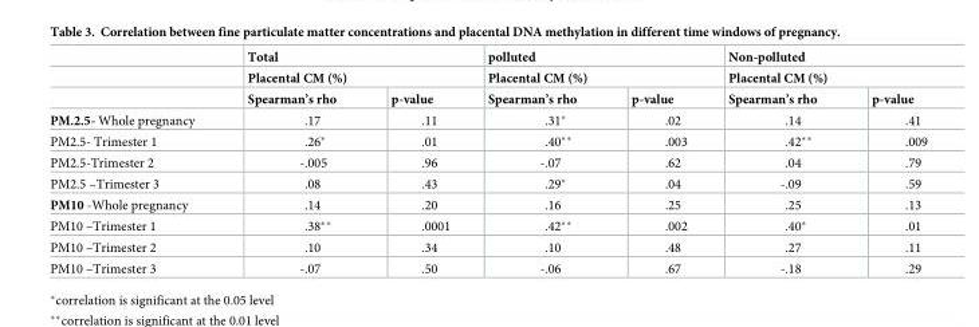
<table><thead><tr><td rowspan="3"></td><td rowspan="2" colspan="2">Total Placental CM (%)</td><td rowspan="2" colspan="2">polluted Placental CM (%)</td><td rowspan="2" colspan="2">Non-polluted Placental CM (%)</td></tr><tr></tr><tr><td>Spearman’s rho</td><td>p-value</td><td>Spearman’s rho</td><td>p-value</td><td>Spearman’s rho</td><td>p-value</td></tr></thead><tbody><tr><td>PM.2.5- Whole pregnancy</td><td>.17</td><td>.11</td><td>.31*</td><td>.02</td><td>.14</td><td>.41</td></tr><tr><td>PM2.5- Trimester 1</td><td>.26*</td><td>.01</td><td>.40**</td><td>.003</td><td>.42**</td><td>.009</td></tr><tr><td>PM2.5-Trimester 2</td><td>-.005</td><td>.96</td><td>-.07</td><td>.62</td><td>.04</td><td>.79</td></tr><tr><td>PM2.5 –Trimester 3</td><td>.08</td><td>.43</td><td>.29*</td><td>.04</td><td>-.09</td><td>.59</td></tr><tr><td>PM10 -Whole pregnancy</td><td>.14</td><td>.20</td><td>.16</td><td>.25</td><td>.25</td><td>.13</td></tr><tr><td>PM10 –Trimester 1</td><td>.38**</td><td>.0001</td><td>.42**</td><td>.002</td><td>.40*</td><td>.01</td></tr><tr><td>PM10 –Trimester 2</td><td>.10</td><td>.34</td><td>.10</td><td>.48</td><td>.27</td><td>.11</td></tr><tr><td>PM10 –Trimester 3</td><td>-.07</td><td>.50</td><td>-.06</td><td>.67</td><td>-.18</td><td>.29</td></tr></tbody></table>